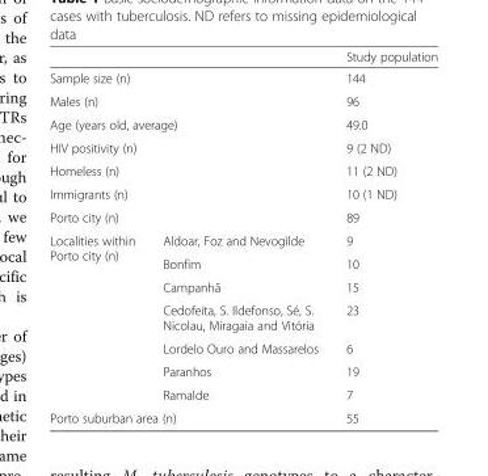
<table><thead><tr><td></td><td></td><td>Study population</td></tr></thead><tbody><tr><td colspan="2">Sample size (n)</td><td>144</td></tr><tr><td colspan="2">Males (n)</td><td>96</td></tr><tr><td colspan="2">Age (years old, average)</td><td>49.0</td></tr><tr><td colspan="2">HIV positivity (n)</td><td>9 (2 ND)</td></tr><tr><td colspan="2">Homeless (n)</td><td>11 (2 ND)</td></tr><tr><td colspan="2">Immigrants (n)</td><td>10 (1 ND)</td></tr><tr><td colspan="2">Porto city (n)</td><td>89</td></tr><tr><td rowspan="7">Localities within Porto city (n)</td><td>Aldoar, Foz and Nevogilde</td><td>9</td></tr><tr><td>Bonfim</td><td>10</td></tr><tr><td>Campanhã</td><td>15</td></tr><tr><td>Cedofeita, S. Ildefonso, Sé, S. Nicolau, Miragaia and Vitória</td><td>23</td></tr><tr><td>Lordelo Ouro and Massarelos</td><td>6</td></tr><tr><td>Paranhos</td><td>19</td></tr><tr><td>Ramalde</td><td>7</td></tr><tr><td colspan="2">Porto suburban area (n)</td><td>55</td></tr></tbody></table>